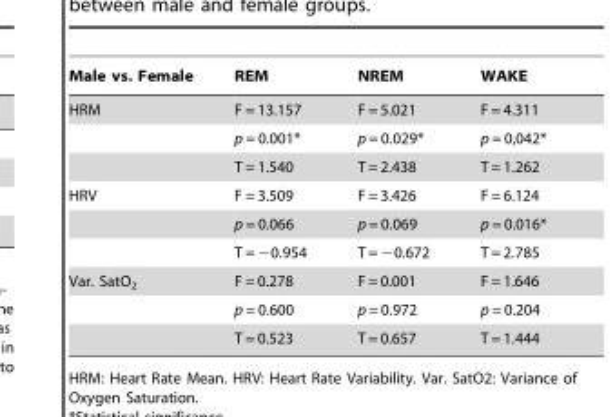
<table><thead><tr><td>Male vs. Female</td><td>REM</td><td>NREM</td><td>WAKE</td></tr></thead><tbody><tr><td rowspan="3">HRM</td><td>F = 13.157</td><td>F = 5.021</td><td>F = 4.311</td></tr><tr><td>p = 0.001*</td><td>p = 0.029*</td><td>p = 0,042*</td></tr><tr><td>T = 1.540</td><td>T = 2.438</td><td>T = 1.262</td></tr><tr><td rowspan="3">HRV</td><td>F = 3.509</td><td>F = 3.426</td><td>F = 6.124</td></tr><tr><td>p = 0.066</td><td>p = 0.069</td><td>p = 0.016*</td></tr><tr><td>T = −0.954</td><td>T = −0.672</td><td>T = 2.785</td></tr><tr><td rowspan="3">Var. SatO<sub>2</sub></td><td>F = 0.278</td><td>F = 0.001</td><td>F = 1.646</td></tr><tr><td>p = 0.600</td><td>p = 0.972</td><td>p = 0.204</td></tr><tr><td>T = 0.523</td><td>T = 0.657</td><td>T = 1.444</td></tr></tbody></table>